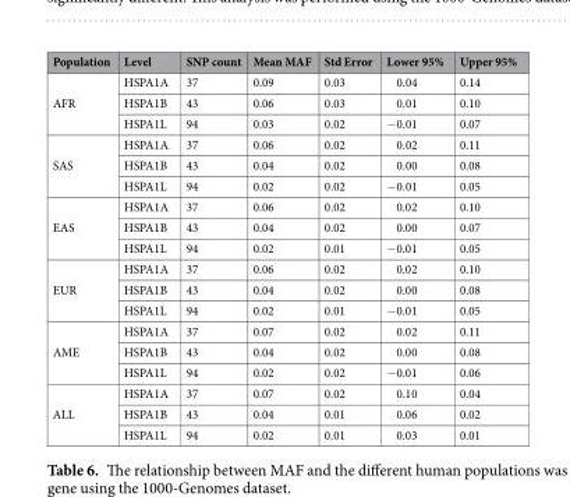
<table><thead><tr><td>Population</td><td>Level</td><td>SNP count</td><td>Mean MAF</td><td>Std Error</td><td>Lower 95%</td><td>Upper 95%</td></tr></thead><tbody><tr><td rowspan="3">AFR</td><td>HSPA1A</td><td>37</td><td>0.09</td><td>0.03</td><td>0.04</td><td>0.14</td></tr><tr><td>HSPA1B</td><td>43</td><td>0.06</td><td>0.03</td><td>0.01</td><td>0.10</td></tr><tr><td>HSPA1L</td><td>94</td><td>0.03</td><td>0.02</td><td>−0.01</td><td>0.07</td></tr><tr><td rowspan="3">SAS</td><td>HSPA1A</td><td>37</td><td>0.06</td><td>0.02</td><td>0.02</td><td>0.11</td></tr><tr><td>HSPA1B</td><td>43</td><td>0.04</td><td>0.02</td><td>0.00</td><td>0.08</td></tr><tr><td>HSPA1L</td><td>94</td><td>0.02</td><td>0.02</td><td>−0.01</td><td>0.05</td></tr><tr><td rowspan="3">EAS</td><td>HSPA1A</td><td>37</td><td>0.06</td><td>0.02</td><td>0.02</td><td>0.10</td></tr><tr><td>HSPA1B</td><td>43</td><td>0.04</td><td>0.02</td><td>0.00</td><td>0.07</td></tr><tr><td>HSPA1L</td><td>94</td><td>0.02</td><td>0.01</td><td>−0.01</td><td>0.05</td></tr><tr><td rowspan="3">EUR</td><td>HSPA1A</td><td>37</td><td>0.06</td><td>0.02</td><td>0.02</td><td>0.10</td></tr><tr><td>HSPA1B</td><td>43</td><td>0.04</td><td>0.02</td><td>0.00</td><td>0.08</td></tr><tr><td>HSPA1L</td><td>94</td><td>0.02</td><td>0.01</td><td>−0.01</td><td>0.05</td></tr><tr><td rowspan="3">AME</td><td>HSPA1A</td><td>37</td><td>0.07</td><td>0.02</td><td>0.02</td><td>0.11</td></tr><tr><td>HSPA1B</td><td>43</td><td>0.04</td><td>0.02</td><td>0.00</td><td>0.08</td></tr><tr><td>HSPA1L</td><td>94</td><td>0.02</td><td>0.02</td><td>−0.01</td><td>0.06</td></tr><tr><td rowspan="3">ALL</td><td>HSPA1A</td><td>37</td><td>0.07</td><td>0.02</td><td>0.10</td><td>0.04</td></tr><tr><td>HSPA1B</td><td>43</td><td>0.04</td><td>0.01</td><td>0.06</td><td>0.02</td></tr><tr><td>HSPA1L</td><td>94</td><td>0.02</td><td>0.01</td><td>0.03</td><td>0.01</td></tr></tbody></table>